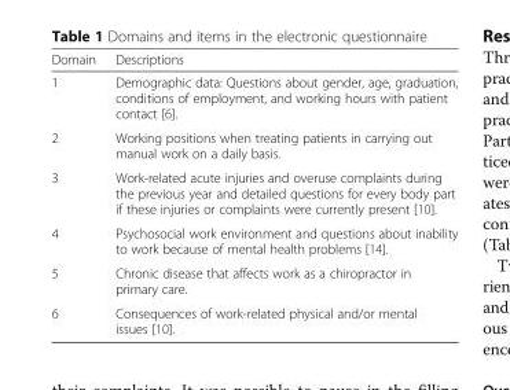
<table><thead><tr><td>Domain</td><td>Descriptions</td></tr></thead><tbody><tr><td>1</td><td>Demographic data: Questions about gender, age, graduation, conditions of employment, and working hours with patient contact [6].</td></tr><tr><td>2</td><td>Working positions when treating patients in carrying out manual work on a daily basis.</td></tr><tr><td>3</td><td>Work-related acute injuries and overuse complaints during the previous year and detailed questions for every body part if these injuries or complaints were currently present [10].</td></tr><tr><td>4</td><td>Psychosocial work environment and questions about inability to work because of mental health problems [14].</td></tr><tr><td>5</td><td>Chronic disease that affects work as a chiropractor in primary care.</td></tr><tr><td>6</td><td>Consequences of work-related physical and/or mental issues [10].</td></tr></tbody></table>